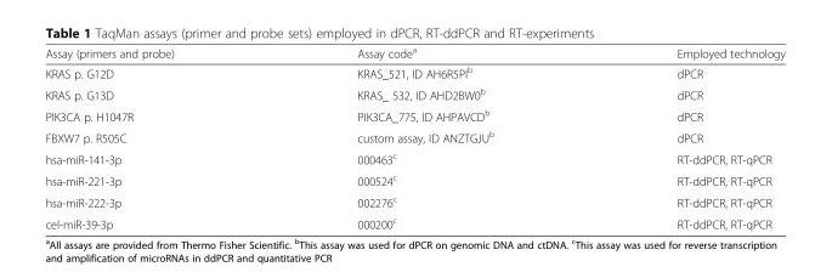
<table><thead><tr><td>Assay (primers and probe)</td><td>Assay code<sup>a</sup></td><td>Employed technology</td></tr></thead><tbody><tr><td>KRAS p. G12D</td><td>KRAS_521, ID AH6R5PI<sup>b</sup></td><td>dPCR</td></tr><tr><td>KRAS p. G13D</td><td>KRAS_ 532, ID AHD2BW0<sup>b</sup></td><td>dPCR</td></tr><tr><td>PIK3CA p. H1047R</td><td>PIK3CA_775, ID AHPAVCD<sup>b</sup></td><td>dPCR</td></tr><tr><td>FBXW7 p. R505C</td><td>custom assay, ID ANZTGJU<sup>b</sup></td><td>dPCR</td></tr><tr><td>hsa-miR-141-3p</td><td>000463<sup>c</sup></td><td>RT-ddPCR, RT-qPCR</td></tr><tr><td>hsa-miR-221-3p</td><td>000524<sup>c</sup></td><td>RT-ddPCR, RT-qPCR</td></tr><tr><td>hsa-miR-222-3p</td><td>002276<sup>c</sup></td><td>RT-ddPCR, RT-qPCR</td></tr><tr><td>cel-miR-39-3p</td><td>000200<sup>c</sup></td><td>RT-ddPCR, RT-qPCR</td></tr></tbody></table>